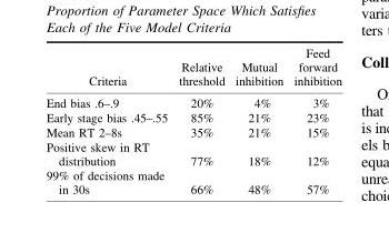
<table><thead><tr><td>Criteria</td><td>Relative threshold</td><td>Mutual inhibition</td><td>Feed forward inhibition</td></tr></thead><tbody><tr><td>End bias .6–.9</td><td>20%</td><td>4%</td><td>3%</td></tr><tr><td>Early stage bias .45–.55</td><td>85%</td><td>21%</td><td>23%</td></tr><tr><td>Mean RT 2–8s</td><td>35%</td><td>21%</td><td>15%</td></tr><tr><td>Positive skew in RT distribution</td><td>77%</td><td>18%</td><td>12%</td></tr><tr><td>99% of decisions made in 30s</td><td>66%</td><td>48%</td><td>57%</td></tr></tbody></table>